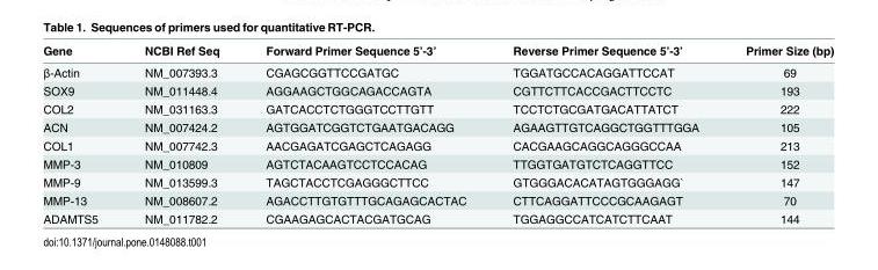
<table><thead><tr><td>Gene</td><td>NCBI Ref Seq</td><td>Forward Primer Sequence 5’-3’</td><td>Reverse Primer Sequence 5’-3’</td><td>Primer Size (bp)</td></tr></thead><tbody><tr><td>β-Actin</td><td>NM_007393.3</td><td>CGAGCGGTTCCGATGC</td><td>TGGATGCCACAGGATTCCAT</td><td>69</td></tr><tr><td>SOX9</td><td>NM_011448.4</td><td>AGGAAGCTGGCAGACCAGTA</td><td>CGTTCTTCACCGACTTCCTC</td><td>193</td></tr><tr><td>COL2</td><td>NM_031163.3</td><td>GATCACCTCTGGGTCCTTGTT</td><td>TCCTCTGCGATGACATTATCT</td><td>222</td></tr><tr><td>ACN</td><td>NM_007424.2</td><td>AGTGGATCGGTCTGAATGACAGG</td><td>AGAAGTTGTCAGGCTGGTTTGGA</td><td>105</td></tr><tr><td>COL1</td><td>NM_007742.3</td><td>AACGAGATCGAGCTCAGAGG</td><td>CACGAAGCAGGCAGGGCCAA</td><td>213</td></tr><tr><td>MMP-3</td><td>NM_010809</td><td>AGTCTACAAGTCCTCCACAG</td><td>TTGGTGATGTCTCAGGTTCC</td><td>152</td></tr><tr><td>MMP-9</td><td>NM_013599.3</td><td>TAGCTACCTCGAGGGCTTCC</td><td>GTGGGACACATAGTGGGAGG`</td><td>147</td></tr><tr><td>MMP-13</td><td>NM_008607.2</td><td>AGACCTTGTGTTTGCAGAGCACTAC</td><td>CTTCAGGATTCCCGCAAGAGT</td><td>70</td></tr><tr><td>ADAMTS5</td><td>NM_011782.2</td><td>CGAAGAGCACTACGATGCAG</td><td>TGGAGGCCATCATCTTCAAT</td><td>144</td></tr></tbody></table>